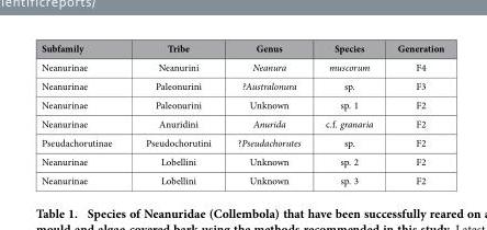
<table><thead><tr><td>Subfamily</td><td>Tribe</td><td>Genus</td><td>Species</td><td>Generation</td></tr></thead><tbody><tr><td>Neanurinae</td><td>Neanurini</td><td>Neanura</td><td>muscorum</td><td>F4</td></tr><tr><td>Neanurinae</td><td>Paleonurini</td><td>?Australonura</td><td>sp.</td><td>F3</td></tr><tr><td>Neanurinae</td><td>Paleonurini</td><td>Unknown</td><td>sp. 1</td><td>F2</td></tr><tr><td>Neanurinae</td><td>Anuridini</td><td>Anurida</td><td>c.f. granaria</td><td>F2</td></tr><tr><td>Pseudachorutinae</td><td>Pseudochorutini</td><td>?Pseudachorutes</td><td>sp.</td><td>F2</td></tr><tr><td>Neanurinae</td><td>Lobellini</td><td>Unknown</td><td>sp. 2</td><td>F2</td></tr><tr><td>Neanurinae</td><td>Lobellini</td><td>Unknown</td><td>sp. 3</td><td>F2</td></tr></tbody></table>